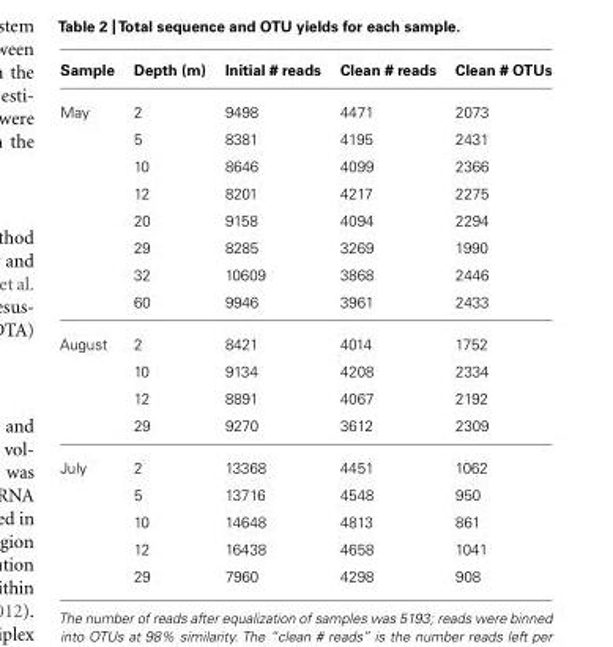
<table><thead><tr><td>Sample</td><td>Depth (m)</td><td>Initial # reads</td><td>Clean # reads</td><td>Clean # OTUs</td></tr></thead><tbody><tr><td rowspan="8">May</td><td>2</td><td>9498</td><td>4471</td><td>2073</td></tr><tr><td>5</td><td>8381</td><td>4195</td><td>2431</td></tr><tr><td>10</td><td>8646</td><td>4099</td><td>2366</td></tr><tr><td>12</td><td>8201</td><td>4217</td><td>2275</td></tr><tr><td>20</td><td>9158</td><td>4094</td><td>2294</td></tr><tr><td>29</td><td>8285</td><td>3269</td><td>1990</td></tr><tr><td>32</td><td>10609</td><td>3868</td><td>2446</td></tr><tr><td>60</td><td>9946</td><td>3961</td><td>2433</td></tr><tr><td rowspan="4">August</td><td>2</td><td>8421</td><td>4014</td><td>1752</td></tr><tr><td>10</td><td>9134</td><td>4208</td><td>2334</td></tr><tr><td>12</td><td>8891</td><td>4067</td><td>2192</td></tr><tr><td>29</td><td>9270</td><td>3612</td><td>2309</td></tr><tr><td rowspan="5">July</td><td>2</td><td>13368</td><td>4451</td><td>1062</td></tr><tr><td>5</td><td>13716</td><td>4548</td><td>950</td></tr><tr><td>10</td><td>14648</td><td>4813</td><td>861</td></tr><tr><td>12</td><td>16438</td><td>4658</td><td>1041</td></tr><tr><td>29</td><td>7960</td><td>4298</td><td>908</td></tr></tbody></table>